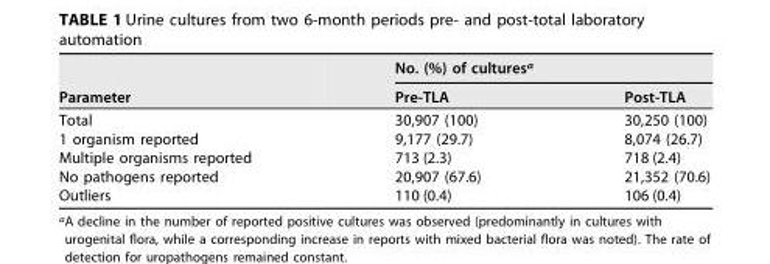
<table><thead><tr><td rowspan="2">Parameter</td><td colspan="2">No. (%) of cultures<sup>a</sup></td></tr><tr><td>Pre-TLA</td><td>Post-TLA</td></tr></thead><tbody><tr><td>Total</td><td>30,907 (100)</td><td>30,250 (100)</td></tr><tr><td>1 organism reported</td><td>9,177 (29.7)</td><td>8,074 (26.7)</td></tr><tr><td>Multiple organisms reported</td><td>713 (2.3)</td><td>718 (2.4)</td></tr><tr><td>No pathogens reported</td><td>20,907 (67.6)</td><td>21,352 (70.6)</td></tr><tr><td>Outliers</td><td>110 (0.4)</td><td>106 (0.4)</td></tr></tbody></table>